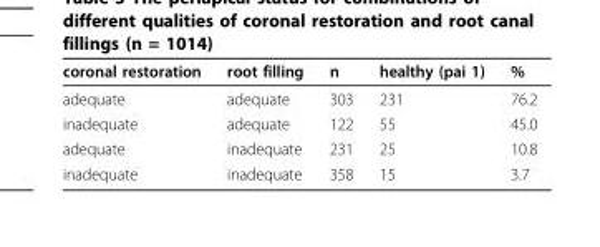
<table><thead><tr><td>coronal restoration</td><td>root filling</td><td>n</td><td>healthy (pai 1)</td><td>%</td></tr></thead><tbody><tr><td>adequate</td><td>adequate</td><td>303</td><td>231</td><td>76.2</td></tr><tr><td>inadequate</td><td>adequate</td><td>122</td><td>55</td><td>45.0</td></tr><tr><td>adequate</td><td>inadequate</td><td>231</td><td>25</td><td>10.8</td></tr><tr><td>inadequate</td><td>inadequate</td><td>358</td><td>15</td><td>3.7</td></tr></tbody></table>